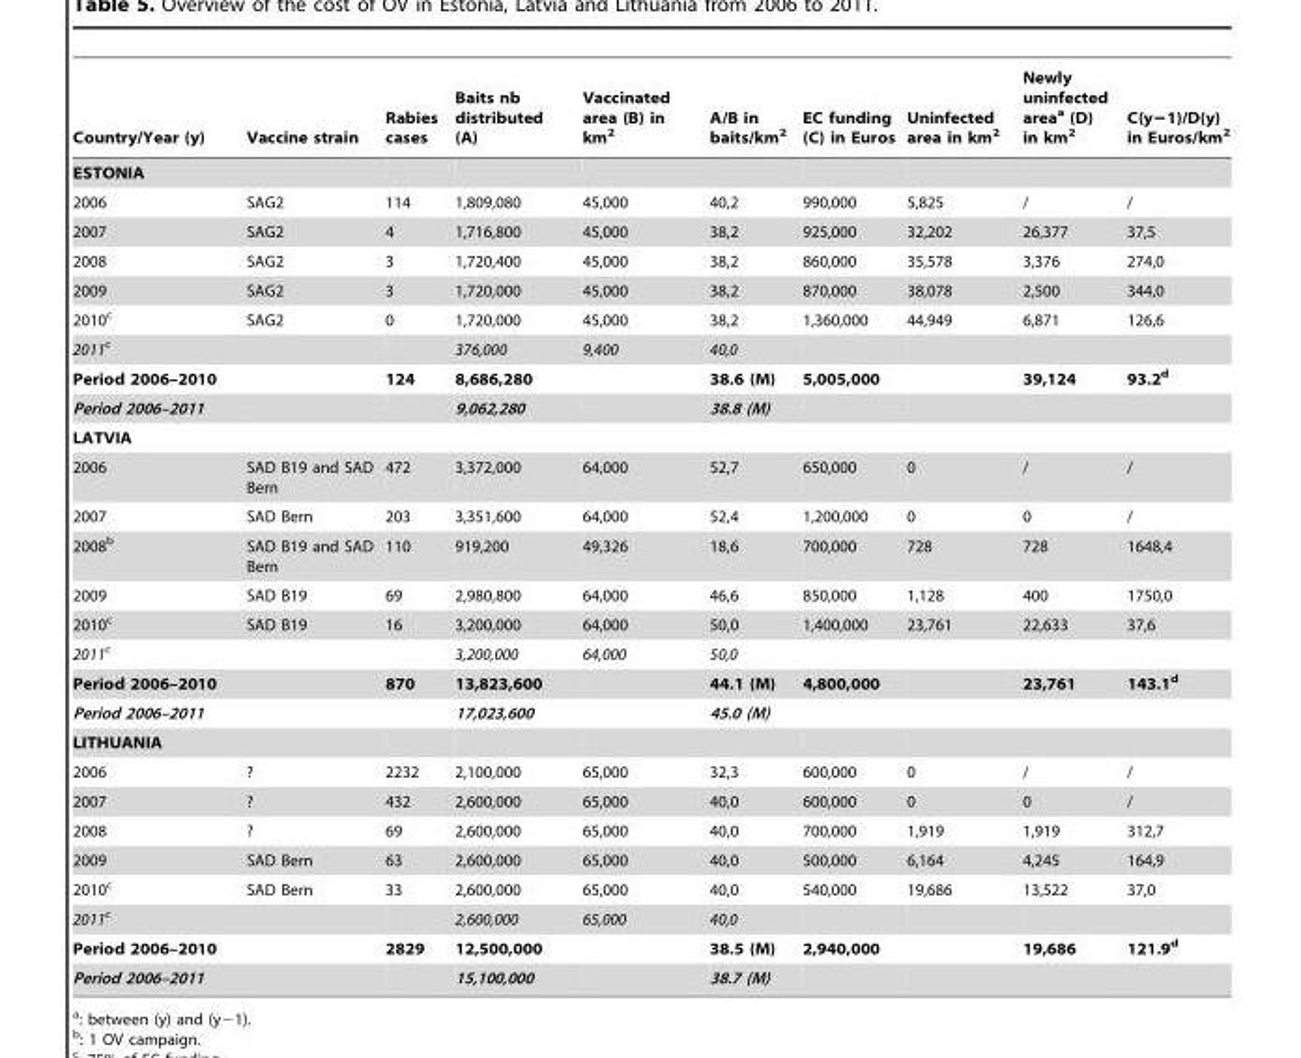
<table><thead><tr><td>Country/Year (y)</td><td>Vaccine strain</td><td>Rabies cases</td><td>Baits nb distributed (A)</td><td>Vaccinated area (B) in km<sup>2</sup></td><td>A/B in baits/km<sup>2</sup></td><td>EC funding (C) in Euros</td><td>Uninfected area in km<sup>2</sup></td><td>Newly uninfected area<sup>a</sup> (D) in km<sup>2</sup></td><td>C(y−1)/D(y) in Euros/km<sup>2</sup></td></tr></thead><tbody><tr><td colspan="10">ESTONIA</td></tr><tr><td>2006</td><td>SAG2</td><td>114</td><td>1,809,080</td><td>45,000</td><td>40,2</td><td>990,000</td><td>5,825</td><td>/</td><td>/</td></tr><tr><td>2007</td><td>SAG2</td><td>4</td><td>1,716,800</td><td>45,000</td><td>38,2</td><td>925,000</td><td>32,202</td><td>26,377</td><td>37,5</td></tr><tr><td>2008</td><td>SAG2</td><td>3</td><td>1,720,400</td><td>45,000</td><td>38,2</td><td>860,000</td><td>35,578</td><td>3,376</td><td>274,0</td></tr><tr><td>2009</td><td>SAG2</td><td>3</td><td>1,720,000</td><td>45,000</td><td>38,2</td><td>870,000</td><td>38,078</td><td>2,500</td><td>344,0</td></tr><tr><td>2010<sup>c</sup></td><td>SAG2</td><td>0</td><td>1,720,000</td><td>45,000</td><td>38,2</td><td>1,360,000</td><td>44,949</td><td>6,871</td><td>126,6</td></tr><tr><td>2011c</td><td></td><td></td><td>376,000</td><td>9,400</td><td>40,0</td><td></td><td></td><td></td><td></td></tr><tr><td>Period 2006–2010</td><td></td><td>124</td><td>8,686,280</td><td></td><td>38.6 (M)</td><td>5,005,000</td><td></td><td>39,124</td><td>93.2d</td></tr><tr><td>Period 2006–2011</td><td></td><td></td><td>9,062,280</td><td></td><td>38.8 (M)</td><td></td><td></td><td></td><td></td></tr><tr><td colspan="10">LATVIA</td></tr><tr><td>2006</td><td>SAD B19 and SAD Bern</td><td>472</td><td>3,372,000</td><td>64,000</td><td>52,7</td><td>650,000</td><td>0</td><td>/</td><td>/</td></tr><tr><td>2007</td><td>SAD Bern</td><td>203</td><td>3,351,600</td><td>64,000</td><td>52,4</td><td>1,200,000</td><td>0</td><td>0</td><td>/</td></tr><tr><td>2008<sup>b</sup></td><td>SAD B19 and SAD Bern</td><td>110</td><td>919,200</td><td>49,326</td><td>18,6</td><td>700,000</td><td>728</td><td>728</td><td>1648,4</td></tr><tr><td>2009</td><td>SAD B19</td><td>69</td><td>2,980,800</td><td>64,000</td><td>46,6</td><td>850,000</td><td>1,128</td><td>400</td><td>1750,0</td></tr><tr><td>2010<sup>c</sup></td><td>SAD B19</td><td>16</td><td>3,200,000</td><td>64,000</td><td>50,0</td><td>1,400,000</td><td>23,761</td><td>22,633</td><td>37,6</td></tr><tr><td>2011c</td><td></td><td></td><td>3,200,000</td><td>64,000</td><td>50,0</td><td></td><td></td><td></td><td></td></tr><tr><td>Period 2006–2010</td><td></td><td>870</td><td>13,823,600</td><td></td><td>44.1 (M)</td><td>4,800,000</td><td></td><td>23,761</td><td>143.1d</td></tr><tr><td>Period 2006–2011</td><td></td><td></td><td>17,023,600</td><td></td><td>45.0 (M)</td><td></td><td></td><td></td><td></td></tr><tr><td colspan="10">LITHUANIA</td></tr><tr><td>2006</td><td>?</td><td>2232</td><td>2,100,000</td><td>65,000</td><td>32,3</td><td>600,000</td><td>0</td><td>/</td><td>/</td></tr><tr><td>2007</td><td>?</td><td>432</td><td>2,600,000</td><td>65,000</td><td>40,0</td><td>600,000</td><td>0</td><td>0</td><td>/</td></tr><tr><td>2008</td><td>?</td><td>69</td><td>2,600,000</td><td>65,000</td><td>40,0</td><td>700,000</td><td>1,919</td><td>1,919</td><td>312,7</td></tr><tr><td>2009</td><td>SAD Bern</td><td>63</td><td>2,600,000</td><td>65,000</td><td>40,0</td><td>500,000</td><td>6,164</td><td>4,245</td><td>164,9</td></tr><tr><td>2010<sup>c</sup></td><td>SAD Bern</td><td>33</td><td>2,600,000</td><td>65,000</td><td>40,0</td><td>540,000</td><td>19,686</td><td>13,522</td><td>37,0</td></tr><tr><td>2011c</td><td></td><td></td><td>2,600,000</td><td>65,000</td><td>40,0</td><td></td><td></td><td></td><td></td></tr><tr><td>Period 2006–2010</td><td></td><td>2829</td><td>12,500,000</td><td></td><td>38.5 (M)</td><td>2,940,000</td><td></td><td>19,686</td><td>121.9d</td></tr><tr><td>Period 2006–2011</td><td></td><td></td><td>15,100,000</td><td></td><td>38.7 (M)</td><td></td><td></td><td></td><td></td></tr></tbody></table>